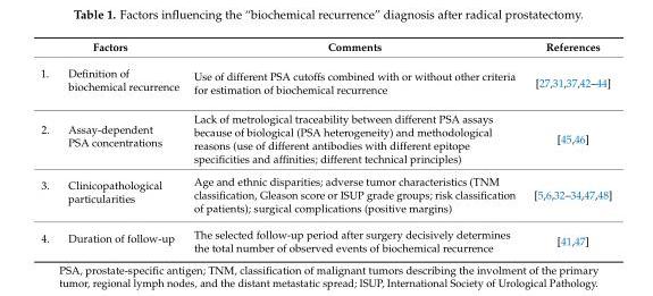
<table><thead><tr><td>Factors</td><td>Comments</td><td>References</td></tr></thead><tbody><tr><td>1. Definition of biochemical recurrence</td><td>Use of different PSA cutoffs combined with or without other criteria for estimation of biochemical recurrence</td><td>[27,31,37,42–44]</td></tr><tr><td>2. Assay-dependent PSA concentrations</td><td>Lack of metrological traceability between different PSA assays because of biological (PSA heterogeneity) and methodological reasons (use of different antibodies with different epitope specificities and affinities; different technical principles)</td><td>[45,46]</td></tr><tr><td>3. Clinicopathological particularities</td><td>Age and ethnic disparities; adverse tumor characteristics (TNM classification, Gleason score or ISUP grade groups; risk classification of patients); surgical complications (positive margins)</td><td>[5,6,32–34,47,48]</td></tr><tr><td>4. Duration of follow-up</td><td>The selected follow-up period after surgery decisively determines the total number of observed events of biochemical recurrence</td><td>[41,47]</td></tr></tbody></table>